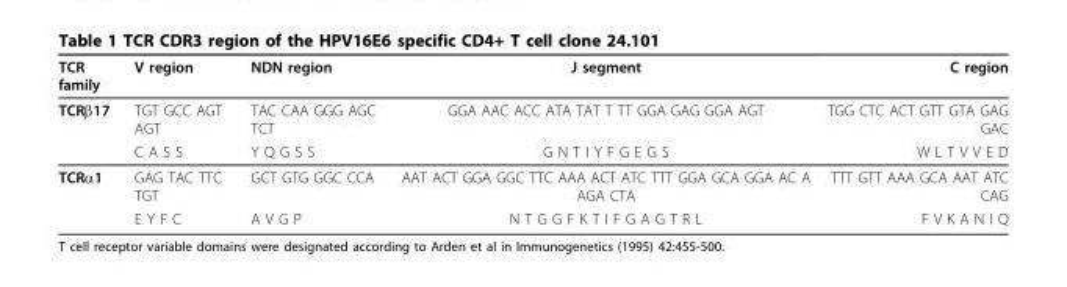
<table><thead><tr><td>TCR family</td><td>V region</td><td>NDN region</td><td>J segment</td><td>C region</td></tr></thead><tbody><tr><td rowspan="2">TCRβ17</td><td>TGT GCC AGT AGT</td><td>TAC CAA GGG AGC TCT</td><td>GGA AAC ACC ATA TAT T TT GGA GAG GGA AGT</td><td>TGG CTC ACT GTT GTA GAG GAC</td></tr><tr><td>C A S S</td><td>Y Q G S S</td><td>G N T I Y F G E G S</td><td>W L T V V E D</td></tr><tr><td rowspan="2">TCRα1</td><td>GAG TAC TTC TGT</td><td>GCT GTG GGC CCA</td><td>AAT ACT GGA GGC TTC AAA ACT ATC TTT GGA GCA GGA AC A AGA CTA</td><td>TTT GTT AAA GCA AAT ATC CAG</td></tr><tr><td>E Y F C</td><td>A V G P</td><td>N T G G F K T I F G A G T R L</td><td>F V K A N I Q</td></tr></tbody></table>